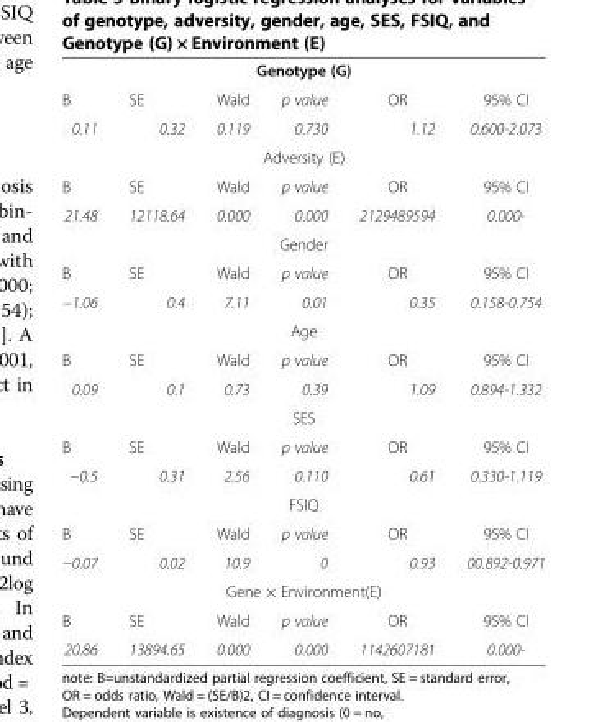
<table><tbody><tr><td colspan="6">Genotype (G)</td></tr><tr><td>B</td><td>SE</td><td>Wald</td><td>p value</td><td>OR</td><td>95% CI</td></tr><tr><td>0.11</td><td>0.32</td><td>0.119</td><td>0.730</td><td>1.12</td><td>0.600-2.073</td></tr><tr><td colspan="6">Adversity (E)</td></tr><tr><td>B</td><td>SE</td><td>Wald</td><td>p value</td><td>OR</td><td>95% CI</td></tr><tr><td>21.48</td><td>12118.64</td><td>0.000</td><td>0.000</td><td>2129489594</td><td>0.000-</td></tr><tr><td colspan="6">Gender</td></tr><tr><td>B</td><td>SE</td><td>Wald</td><td>p value</td><td>OR</td><td>95% CI</td></tr><tr><td>−1.06</td><td>0.4</td><td>7.11</td><td>0.01</td><td>0.35</td><td>0.158-0.754</td></tr><tr><td colspan="6">Age</td></tr><tr><td>B</td><td>SE</td><td>Wald</td><td>p value</td><td>OR</td><td>95% CI</td></tr><tr><td>0.09</td><td>0.1</td><td>0.73</td><td>0.39</td><td>1.09</td><td>0.894-1.332</td></tr><tr><td colspan="6">SES</td></tr><tr><td>B</td><td>SE</td><td>Wald</td><td>p value</td><td>OR</td><td>95% CI</td></tr><tr><td>−0.5</td><td>0.31</td><td>2.56</td><td>0.110</td><td>0.61</td><td>0.330-1.119</td></tr><tr><td colspan="6">FSIQ</td></tr><tr><td>B</td><td>SE</td><td>Wald</td><td>p value</td><td>OR</td><td>95% CI</td></tr><tr><td>−0.07</td><td>0.02</td><td>10.9</td><td>0</td><td>0.93</td><td>00.892-0.971</td></tr><tr><td colspan="6">Gene × Environment(E)</td></tr><tr><td>B</td><td>SE</td><td>Wald</td><td>p value</td><td>OR</td><td>95% CI</td></tr><tr><td>20.86</td><td>13894.65</td><td>0.000</td><td>0.000</td><td>1142607181</td><td>0.000-</td></tr></tbody></table>